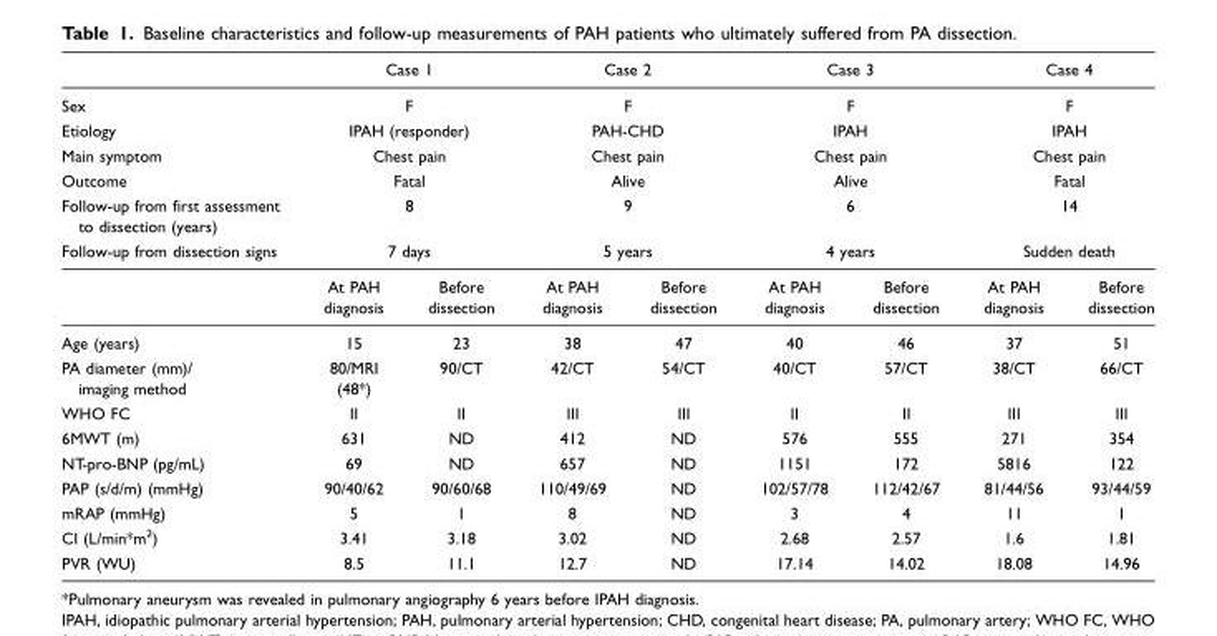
<table><thead><tr><td></td><td colspan="2">Case 1</td><td colspan="2">Case 2</td><td colspan="2">Case 3</td><td colspan="2">Case 4</td></tr></thead><tbody><tr><td>Sex</td><td colspan="2">F</td><td colspan="2">F</td><td colspan="2">F</td><td colspan="2">F</td></tr><tr><td>Etiology</td><td colspan="2">IPAH (responder)</td><td colspan="2">PAH-CHD</td><td colspan="2">IPAH</td><td colspan="2">IPAH</td></tr><tr><td>Main symptom</td><td colspan="2">Chest pain</td><td colspan="2">Chest pain</td><td colspan="2">Chest pain</td><td colspan="2">Chest pain</td></tr><tr><td>Outcome</td><td colspan="2">Fatal</td><td colspan="2">Alive</td><td colspan="2">Alive</td><td colspan="2">Fatal</td></tr><tr><td>Follow-up from first assessment to dissection (years)</td><td colspan="2">8</td><td colspan="2">9</td><td colspan="2">6</td><td colspan="2">14</td></tr><tr><td rowspan="2">Follow-up from dissection signs</td><td colspan="2">7 days</td><td colspan="2">5 years</td><td colspan="2">4 years</td><td colspan="2">Sudden death</td></tr><tr><td>At PAH diagnosis</td><td>Before dissection</td><td>At PAH diagnosis</td><td>Before dissection</td><td>At PAH diagnosis</td><td>Before dissection</td><td>At PAH diagnosis</td><td>Before dissection</td></tr><tr><td>Age (years)</td><td>15</td><td>23</td><td>38</td><td>47</td><td>40</td><td>46</td><td>37</td><td>51</td></tr><tr><td>PA diameter (mm)/ imaging method</td><td>80/MRI (48*)</td><td>90/CT</td><td>42/CT</td><td>54/CT</td><td>40/CT</td><td>57/CT</td><td>38/CT</td><td>66/CT</td></tr><tr><td>WHO FC</td><td>II</td><td>II</td><td>III</td><td>III</td><td>II</td><td>II</td><td>III</td><td>III</td></tr><tr><td>6MWT (m)</td><td>631</td><td>ND</td><td>412</td><td>ND</td><td>576</td><td>555</td><td>271</td><td>354</td></tr><tr><td>NT-pro-BNP (pg/mL)</td><td>69</td><td>ND</td><td>657</td><td>ND</td><td>1151</td><td>172</td><td>5816</td><td>122</td></tr><tr><td>PAP (s/d/m) (mmHg)</td><td>90/40/62</td><td>90/60/68</td><td>110/49/69</td><td>ND</td><td>102/57/78</td><td>112/42/67</td><td>81/44/56</td><td>93/44/59</td></tr><tr><td>mRAP (mmHg)</td><td>5</td><td>1</td><td>8</td><td>ND</td><td>3</td><td>4</td><td>11</td><td>1</td></tr><tr><td>CI (L/min*m<sup>2</sup>)</td><td>3.41</td><td>3.18</td><td>3.02</td><td>ND</td><td>2.68</td><td>2.57</td><td>1.6</td><td>1.81</td></tr><tr><td>PVR (WU)</td><td>8.5</td><td>11.1</td><td>12.7</td><td>ND</td><td>17.14</td><td>14.02</td><td>18.08</td><td>14.96</td></tr></tbody></table>